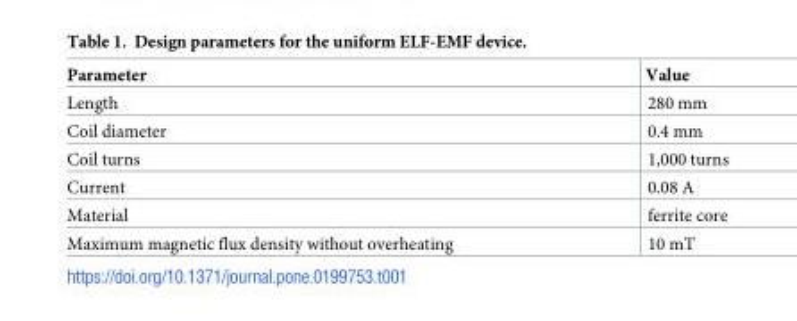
<table><thead><tr><td>Parameter</td><td>Value</td></tr></thead><tbody><tr><td>Length</td><td>280 mm</td></tr><tr><td>Coil diameter</td><td>0.4 mm</td></tr><tr><td>Coil turns</td><td>1,000 turns</td></tr><tr><td>Current</td><td>0.08 A</td></tr><tr><td>Material</td><td>ferrite core</td></tr><tr><td>Maximum magnetic flux density without overheating</td><td>10 mT</td></tr></tbody></table>